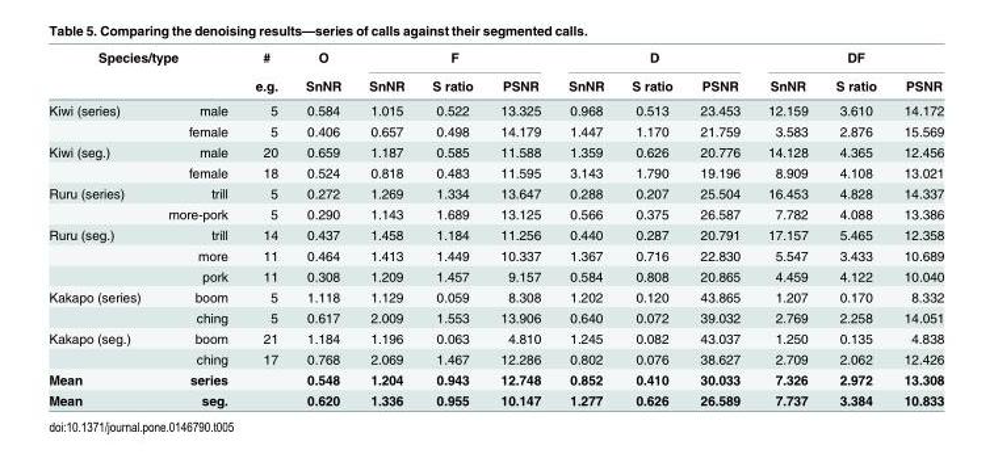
<table><thead><tr><td colspan="2">Species/type</td><td rowspan="2"># e.g.</td><td rowspan="2">O SnNR</td><td colspan="3">F</td><td colspan="3">D</td><td colspan="3">DF</td></tr><tr><td></td><td></td><td>SnNR</td><td>S ratio</td><td>PSNR</td><td>SnNR</td><td>S ratio</td><td>PSNR</td><td>SnNR</td><td>S ratio</td><td>PSNR</td></tr></thead><tbody><tr><td rowspan="2">Kiwi (series)</td><td>male</td><td>5</td><td>0.584</td><td>1.015</td><td>0.522</td><td>13.325</td><td>0.968</td><td>0.513</td><td>23.453</td><td>12.159</td><td>3.610</td><td>14.172</td></tr><tr><td>female</td><td>5</td><td>0.406</td><td>0.657</td><td>0.498</td><td>14.179</td><td>1.447</td><td>1.170</td><td>21.759</td><td>3.583</td><td>2.876</td><td>15.569</td></tr><tr><td rowspan="2">Kiwi (seg.)</td><td>male</td><td>20</td><td>0.659</td><td>1.187</td><td>0.585</td><td>11.588</td><td>1.359</td><td>0.626</td><td>20.776</td><td>14.128</td><td>4.365</td><td>12.456</td></tr><tr><td>female</td><td>18</td><td>0.524</td><td>0.818</td><td>0.483</td><td>11.595</td><td>3.143</td><td>1.790</td><td>19.196</td><td>8.909</td><td>4.108</td><td>13.021</td></tr><tr><td rowspan="2">Ruru (series)</td><td>trill</td><td>5</td><td>0.272</td><td>1.269</td><td>1.334</td><td>13.647</td><td>0.288</td><td>0.207</td><td>25.504</td><td>16.453</td><td>4.828</td><td>14.337</td></tr><tr><td>more-pork</td><td>5</td><td>0.290</td><td>1.143</td><td>1.689</td><td>13.125</td><td>0.566</td><td>0.375</td><td>26.587</td><td>7.782</td><td>4.088</td><td>13.386</td></tr><tr><td rowspan="3">Ruru (seg.)</td><td>trill</td><td>14</td><td>0.437</td><td>1.458</td><td>1.184</td><td>11.256</td><td>0.440</td><td>0.287</td><td>20.791</td><td>17.157</td><td>5.465</td><td>12.358</td></tr><tr><td>more</td><td>11</td><td>0.464</td><td>1.413</td><td>1.449</td><td>10.337</td><td>1.367</td><td>0.716</td><td>22.830</td><td>5.547</td><td>3.433</td><td>10.689</td></tr><tr><td>pork</td><td>11</td><td>0.308</td><td>1.209</td><td>1.457</td><td>9.157</td><td>0.584</td><td>0.808</td><td>20.865</td><td>4.459</td><td>4.122</td><td>10.040</td></tr><tr><td rowspan="2">Kakapo (series)</td><td>boom</td><td>5</td><td>1.118</td><td>1.129</td><td>0.059</td><td>8.308</td><td>1.202</td><td>0.120</td><td>43.865</td><td>1.207</td><td>0.170</td><td>8.332</td></tr><tr><td>ching</td><td>5</td><td>0.617</td><td>2.009</td><td>1.553</td><td>13.906</td><td>0.640</td><td>0.072</td><td>39.032</td><td>2.769</td><td>2.258</td><td>14.051</td></tr><tr><td rowspan="2">Kakapo (seg.)</td><td>boom</td><td>21</td><td>1.184</td><td>1.196</td><td>0.063</td><td>4.810</td><td>1.245</td><td>0.082</td><td>43.037</td><td>1.250</td><td>0.135</td><td>4.838</td></tr><tr><td>ching</td><td>17</td><td>0.768</td><td>2.069</td><td>1.467</td><td>12.286</td><td>0.802</td><td>0.076</td><td>38.627</td><td>2.709</td><td>2.062</td><td>12.426</td></tr><tr><td>Mean</td><td>series</td><td></td><td>0.548</td><td>1.204</td><td>0.943</td><td>12.748</td><td>0.852</td><td>0.410</td><td>30.033</td><td>7.326</td><td>2.972</td><td>13.308</td></tr><tr><td>Mean</td><td>seg.</td><td></td><td>0.620</td><td>1.336</td><td>0.955</td><td>10.147</td><td>1.277</td><td>0.626</td><td>26.589</td><td>7.737</td><td>3.384</td><td>10.833</td></tr></tbody></table>